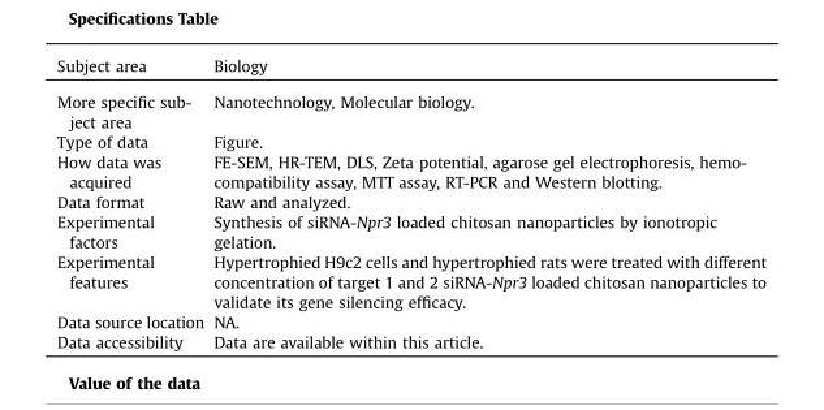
<table><thead><tr><td>Subject area</td><td>Biology</td></tr></thead><tbody><tr><td>More specific sub- ject area</td><td>Nanotechnology, Molecular biology.</td></tr><tr><td>Type of data</td><td>Figure.</td></tr><tr><td>How data was acquired</td><td>FE-SEM, HR-TEM, DLS, Zeta potential, agarose gel electrophoresis, hemo- compatibility assay, MTT assay, RT-PCR and Western blotting.</td></tr><tr><td>Data format</td><td>Raw and analyzed.</td></tr><tr><td>Experimental factors</td><td>Synthesis of siRNA-Npr3 loaded chitosan nanoparticles by ionotropic gelation.</td></tr><tr><td>Experimental features</td><td>Hypertrophied H9c2 cells and hypertrophied rats were treated with different concentration of target 1 and 2 siRNA-Npr3 loaded chitosan nanoparticles to validate its gene silencing efficacy.</td></tr><tr><td>Data source location</td><td>NA.</td></tr><tr><td>Data accessibility</td><td>Data are available within this article.</td></tr></tbody></table>